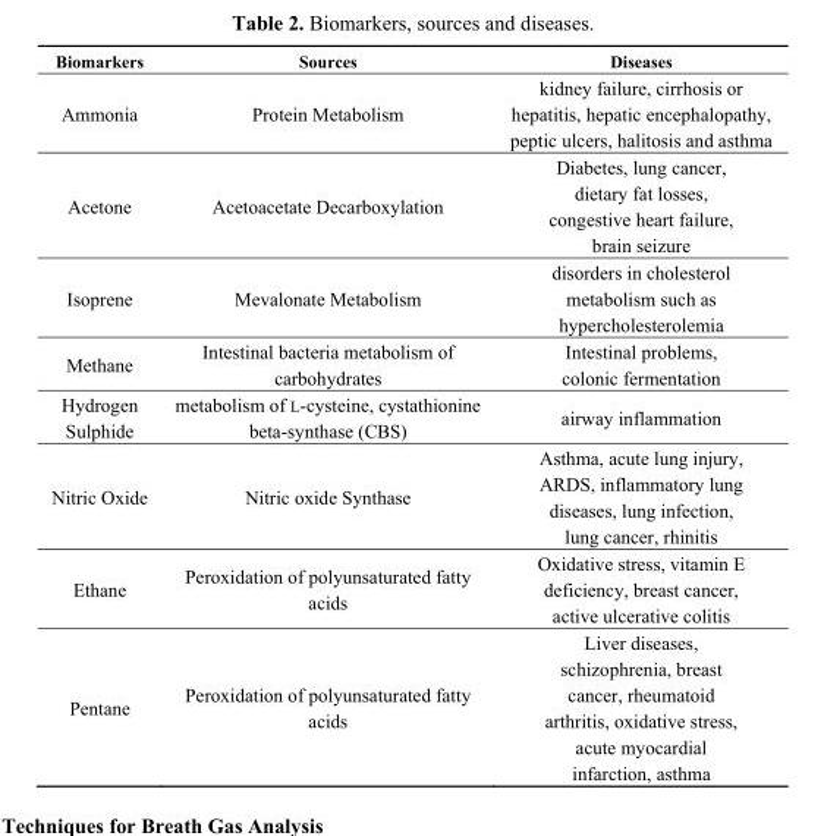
<table><thead><tr><td>Biomarkers</td><td>Sources</td><td>Diseases</td></tr></thead><tbody><tr><td>Ammonia</td><td>Protein Metabolism</td><td>kidney failure, cirrhosis or hepatitis, hepatic encephalopathy, peptic ulcers, halitosis and asthma</td></tr><tr><td>Acetone</td><td>Acetoacetate Decarboxylation</td><td>Diabetes, lung cancer, dietary fat losses, congestive heart failure, brain seizure</td></tr><tr><td>Isoprene</td><td>Mevalonate Metabolism</td><td>disorders in cholesterol metabolism such as hypercholesterolemia</td></tr><tr><td>Methane</td><td>Intestinal bacteria metabolism of carbohydrates</td><td>Intestinal problems, colonic fermentation</td></tr><tr><td>Hydrogen Sulphide</td><td>metabolism of L-cysteine, cystathionine beta-synthase (CBS)</td><td>airway inflammation</td></tr><tr><td>Nitric Oxide</td><td>Nitric oxide Synthase</td><td>Asthma, acute lung injury, ARDS, inflammatory lung diseases, lung infection, lung cancer, rhinitis</td></tr><tr><td>Ethane</td><td>Peroxidation of polyunsaturated fatty acids</td><td>Oxidative stress, vitamin E deficiency, breast cancer, active ulcerative colitis</td></tr><tr><td>Pentane</td><td>Peroxidation of polyunsaturated fatty acids</td><td>Liver diseases, schizophrenia, breast cancer, rheumatoid arthritis, oxidative stress, acute myocardial infarction, asthma</td></tr></tbody></table>